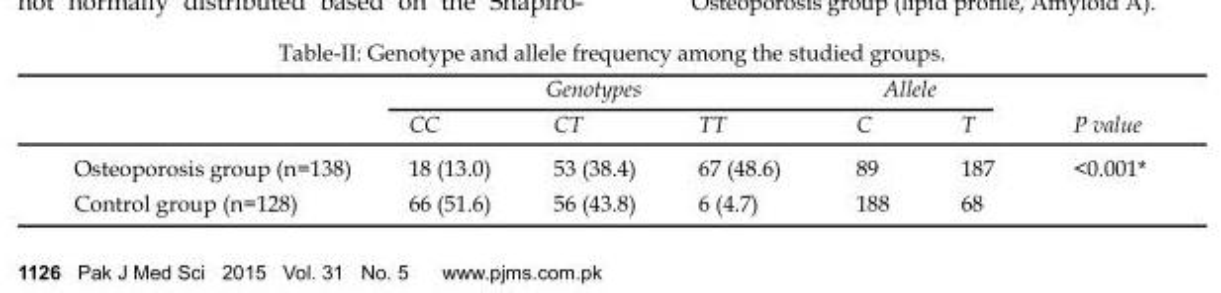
<table><thead><tr><td rowspan="2"></td><td colspan="3">Genotypes</td><td colspan="2">Allele</td><td rowspan="2">P value</td></tr><tr><td>CC</td><td>CT</td><td>TT</td><td>C</td><td>T</td></tr></thead><tbody><tr><td>Osteoporosis group (n=138)</td><td>18 (13.0)</td><td>53 (38.4)</td><td>67 (48.6)</td><td>89</td><td>187</td><td rowspan="2">&lt;0.001*</td></tr><tr><td>Control group (n=128)</td><td>66 (51.6)</td><td>56 (43.8)</td><td>6 (4.7)</td><td>188</td><td>68</td></tr></tbody></table>